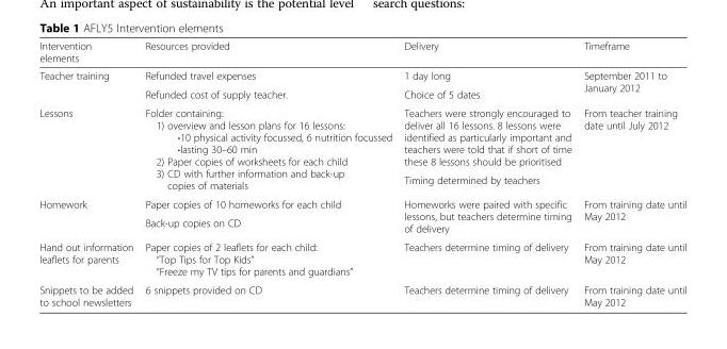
<table><thead><tr><td>Intervention elements</td><td>Resources provided</td><td>Delivery</td><td>Timeframe</td></tr></thead><tbody><tr><td rowspan="2">Teacher training</td><td>Refunded travel expenses</td><td>1 day long</td><td rowspan="2">September 2011 to January 2012</td></tr><tr><td>Refunded cost of supply teacher.</td><td>Choice of 5 dates</td></tr><tr><td rowspan="2">Lessons</td><td rowspan="2">Folder containing: 1) overview and lesson plans for 16 lessons: ·10 physical activity focussed, 6 nutrition focussed ·lasting 30–60 min 2) Paper copies of worksheets for each child 3) CD with further information and back-up copies of materials</td><td>Teachers were strongly encouraged to deliver all 16 lessons. 8 lessons were identified as particularly important and teachers were told that if short of time these 8 lessons should be prioritised</td><td rowspan="2">From teacher training date until July 2012</td></tr><tr><td>Timing determined by teachers</td></tr><tr><td rowspan="2">Homework</td><td>Paper copies of 10 homeworks for each child</td><td rowspan="2">Homeworks were paired with specific lessons, but teachers determine timing of delivery</td><td rowspan="2">From training date until May 2012</td></tr><tr><td>Back-up copies on CD</td></tr><tr><td>Hand out information leaflets for parents</td><td>Paper copies of 2 leaflets for each child: “Top Tips for Top Kids” “Freeze my TV tips for parents and guardians”</td><td>Teachers determine timing of delivery</td><td>From training date until May 2012</td></tr><tr><td>Snippets to be added to school newsletters</td><td>6 snippets provided on CD</td><td>Teachers determine timing of delivery</td><td>From training date until May 2012</td></tr></tbody></table>